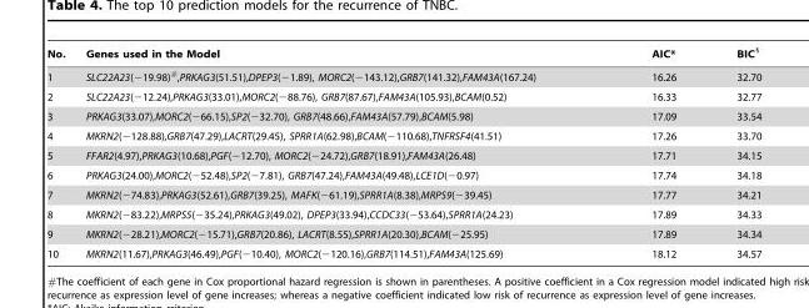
<table><thead><tr><td>No.</td><td>Genes used in the Model</td><td>AIC*</td><td>BIC§</td></tr></thead><tbody><tr><td>1</td><td>SLC22A23(−19.98)#,PRKAG3(51.51),DPEP3(−1.89), MORC2(−143.12),GRB7(141.32),FAM43A(167.24)</td><td>16.26</td><td>32.70</td></tr><tr><td>2</td><td>SLC22A23(−12.24),PRKAG3(33.01),MORC2(−88.76), GRB7(87.67),FAM43A(105.93),BCAM(0.52)</td><td>16.33</td><td>32.77</td></tr><tr><td>3</td><td>PRKAG3(33.07),MORC2(−66.15),SP2(−32.70), GRB7(48.66),FAM43A(57.79),BCAM(5.98)</td><td>17.09</td><td>33.54</td></tr><tr><td>4</td><td>MKRN2(−128.88),GRB7(47.29),LACRT(29.45), SPRR1A(62.98),BCAM(−110.68),TNFRSF4(41.51)</td><td>17.26</td><td>33.70</td></tr><tr><td>5</td><td>FFAR2(4.97),PRKAG3(10.68),PGF(−12.70), MORC2(−24.72),GRB7(18.91),FAM43A(26.48)</td><td>17.71</td><td>34.15</td></tr><tr><td>6</td><td>PRKAG3(24.00),MORC2(−52.48),SP2(−7.81), GRB7(47.24),FAM43A(49.48),LCE1D(−0.97)</td><td>17.74</td><td>34.18</td></tr><tr><td>7</td><td>MKRN2(−74.83),PRKAG3(52.61),GRB7(39.25), MAFK(−61.19),SPRR1A(8.38),MRPS9(−39.45)</td><td>17.77</td><td>34.21</td></tr><tr><td>8</td><td>MKRN2(−83.22),MRPS5(−35.24),PRKAG3(49.02), DPEP3(33.94),CCDC33(−53.64),SPRR1A(24.23)</td><td>17.89</td><td>34.33</td></tr><tr><td>9</td><td>MKRN2(−28.21),MORC2(−15.71),GRB7(20.86), LACRT(8.55),SPRR1A(20.30),BCAM(−25.95)</td><td>17.89</td><td>34.34</td></tr><tr><td>10</td><td>MKRN2(11.67),PRKAG3(46.49),PGF(−10.40), MORC2(−120.16),GRB7(114.51),FAM43A(125.69)</td><td>18.12</td><td>34.57</td></tr></tbody></table>